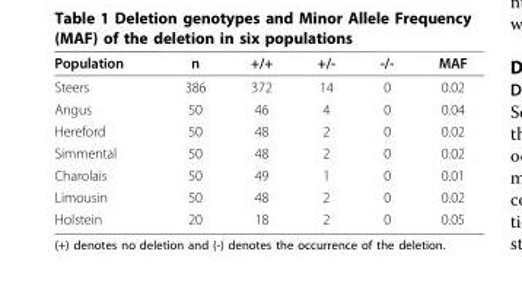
<table><thead><tr><td>Population</td><td>n</td><td>+/+</td><td>+/-</td><td>-/-</td><td>MAF</td></tr></thead><tbody><tr><td>Steers</td><td>386</td><td>372</td><td>14</td><td>0</td><td>0.02</td></tr><tr><td>Angus</td><td>50</td><td>46</td><td>4</td><td>0</td><td>0.04</td></tr><tr><td>Hereford</td><td>50</td><td>48</td><td>2</td><td>0</td><td>0.02</td></tr><tr><td>Simmental</td><td>50</td><td>48</td><td>2</td><td>0</td><td>0.02</td></tr><tr><td>Charolais</td><td>50</td><td>49</td><td>1</td><td>0</td><td>0.01</td></tr><tr><td>Limousin</td><td>50</td><td>48</td><td>2</td><td>0</td><td>0.02</td></tr><tr><td>Holstein</td><td>20</td><td>18</td><td>2</td><td>0</td><td>0.05</td></tr></tbody></table>